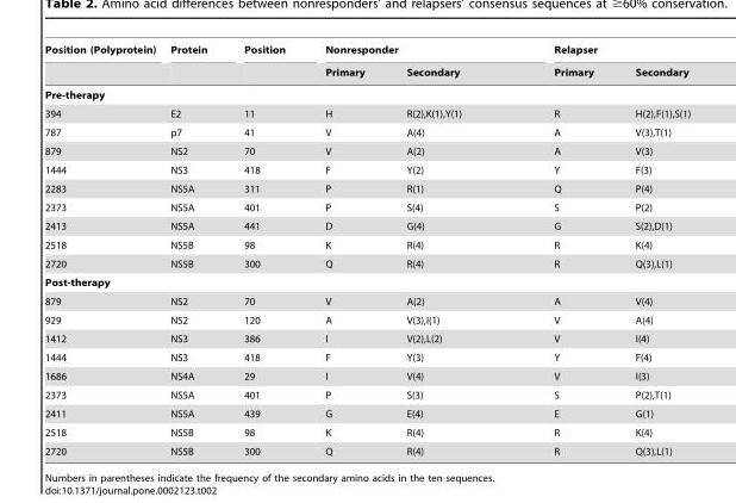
<table><thead><tr><td rowspan="2">Position (Polyprotein)</td><td rowspan="2">Protein</td><td rowspan="2">Position</td><td colspan="2">Nonresponder</td><td colspan="2">Relapser</td></tr><tr><td>Primary</td><td>Secondary</td><td>Primary</td><td>Secondary</td></tr></thead><tbody><tr><td colspan="7">Pre-therapy</td></tr><tr><td>394</td><td>E2</td><td>11</td><td>H</td><td>R(2),K(1),Y(1)</td><td>R</td><td>H(2),F(1),S(1)</td></tr><tr><td>787</td><td>p7</td><td>41</td><td>V</td><td>A(4)</td><td>A</td><td>V(3),T(1)</td></tr><tr><td>879</td><td>NS2</td><td>70</td><td>V</td><td>A(2)</td><td>A</td><td>V(3)</td></tr><tr><td>1444</td><td>NS3</td><td>418</td><td>F</td><td>Y(2)</td><td>Y</td><td>F(3)</td></tr><tr><td>2283</td><td>NS5A</td><td>311</td><td>P</td><td>R(1)</td><td>Q</td><td>P(4)</td></tr><tr><td>2373</td><td>NS5A</td><td>401</td><td>P</td><td>S(4)</td><td>S</td><td>P(2)</td></tr><tr><td>2413</td><td>NS5A</td><td>441</td><td>D</td><td>G(4)</td><td>G</td><td>S(2),D(1)</td></tr><tr><td>2518</td><td>NS5B</td><td>98</td><td>K</td><td>R(4)</td><td>R</td><td>K(4)</td></tr><tr><td>2720</td><td>NS5B</td><td>300</td><td>Q</td><td>R(4)</td><td>R</td><td>Q(3),L(1)</td></tr><tr><td colspan="7">Post-therapy</td></tr><tr><td>879</td><td>NS2</td><td>70</td><td>V</td><td>A(2)</td><td>A</td><td>V(4)</td></tr><tr><td>929</td><td>NS2</td><td>120</td><td>A</td><td>V(3),I(1)</td><td>V</td><td>A(4)</td></tr><tr><td>1412</td><td>NS3</td><td>386</td><td>I</td><td>V(2),L(2)</td><td>V</td><td>I(4)</td></tr><tr><td>1444</td><td>NS3</td><td>418</td><td>F</td><td>Y(3)</td><td>Y</td><td>F(4)</td></tr><tr><td>1686</td><td>NS4A</td><td>29</td><td>I</td><td>V(4)</td><td>V</td><td>I(3)</td></tr><tr><td>2373</td><td>NS5A</td><td>401</td><td>P</td><td>S(3)</td><td>S</td><td>P(2),T(1)</td></tr><tr><td>2411</td><td>NS5A</td><td>439</td><td>G</td><td>E(4)</td><td>E</td><td>G(1)</td></tr><tr><td>2518</td><td>NS5B</td><td>98</td><td>K</td><td>R(4)</td><td>R</td><td>K(4)</td></tr><tr><td>2720</td><td>NS5B</td><td>300</td><td>Q</td><td>R(4)</td><td>R</td><td>Q(3),L(1)</td></tr></tbody></table>